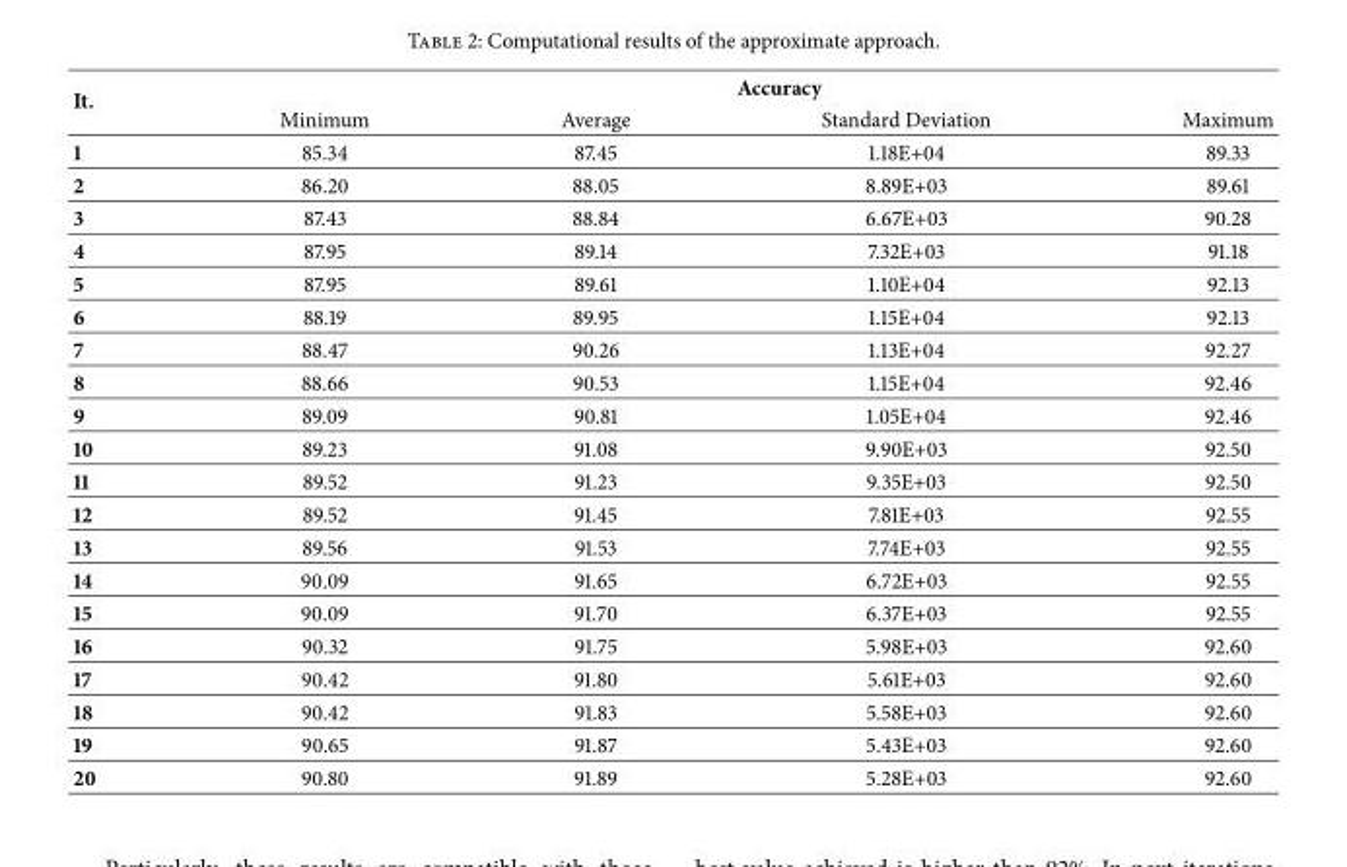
<table><thead><tr><td rowspan="2">It.</td><td colspan="4">Accuracy</td></tr><tr><td>Minimum</td><td>Average</td><td>Standard Deviation</td><td>Maximum</td></tr></thead><tbody><tr><td>1</td><td>85.34</td><td>87.45</td><td>1.18E+04</td><td>89.33</td></tr><tr><td>2</td><td>86.20</td><td>88.05</td><td>8.89E+03</td><td>89.61</td></tr><tr><td>3</td><td>87.43</td><td>88.84</td><td>6.67E+03</td><td>90.28</td></tr><tr><td>4</td><td>87.95</td><td>89.14</td><td>7.32E+03</td><td>91.18</td></tr><tr><td>5</td><td>87.95</td><td>89.61</td><td>1.10E+04</td><td>92.13</td></tr><tr><td>6</td><td>88.19</td><td>89.95</td><td>1.15E+04</td><td>92.13</td></tr><tr><td>7</td><td>88.47</td><td>90.26</td><td>1.13E+04</td><td>92.27</td></tr><tr><td>8</td><td>88.66</td><td>90.53</td><td>1.15E+04</td><td>92.46</td></tr><tr><td>9</td><td>89.09</td><td>90.81</td><td>1.05E+04</td><td>92.46</td></tr><tr><td>10</td><td>89.23</td><td>91.08</td><td>9.90E+03</td><td>92.50</td></tr><tr><td>11</td><td>89.52</td><td>91.23</td><td>9.35E+03</td><td>92.50</td></tr><tr><td>12</td><td>89.52</td><td>91.45</td><td>7.81E+03</td><td>92.55</td></tr><tr><td>13</td><td>89.56</td><td>91.53</td><td>7.74E+03</td><td>92.55</td></tr><tr><td>14</td><td>90.09</td><td>91.65</td><td>6.72E+03</td><td>92.55</td></tr><tr><td>15</td><td>90.09</td><td>91.70</td><td>6.37E+03</td><td>92.55</td></tr><tr><td>16</td><td>90.32</td><td>91.75</td><td>5.98E+03</td><td>92.60</td></tr><tr><td>17</td><td>90.42</td><td>91.80</td><td>5.61E+03</td><td>92.60</td></tr><tr><td>18</td><td>90.42</td><td>91.83</td><td>5.58E+03</td><td>92.60</td></tr><tr><td>19</td><td>90.65</td><td>91.87</td><td>5.43E+03</td><td>92.60</td></tr><tr><td>20</td><td>90.80</td><td>91.89</td><td>5.28E+03</td><td>92.60</td></tr></tbody></table>